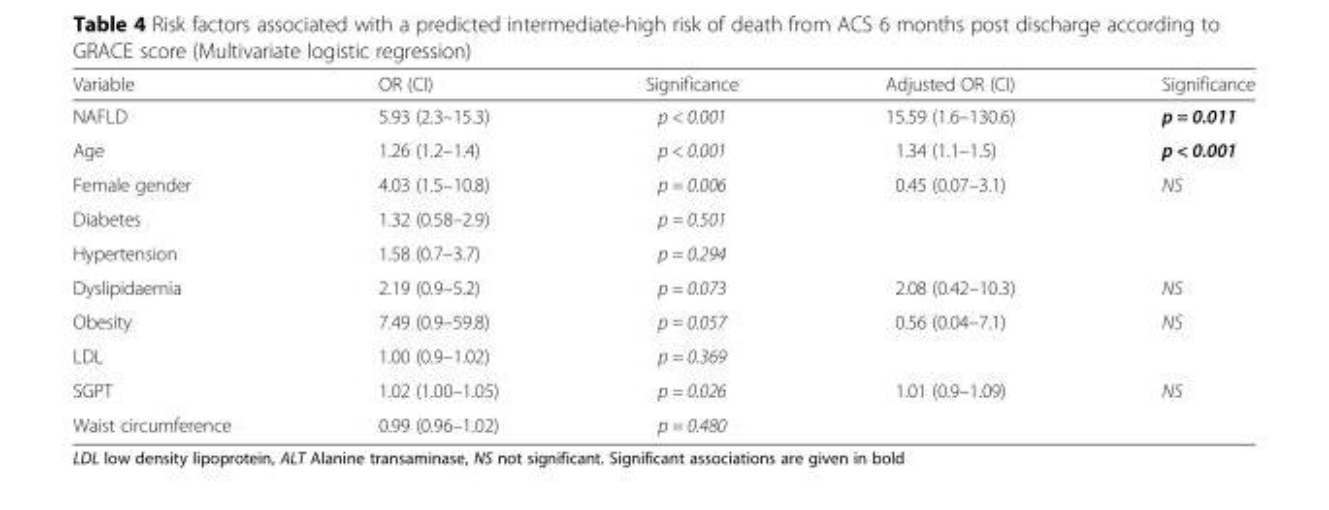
<table><thead><tr><td>Variable</td><td>OR (CI)</td><td>Significance</td><td>Adjusted OR (CI)</td><td>Significance</td></tr></thead><tbody><tr><td>NAFLD</td><td>5.93 (2.3–15.3)</td><td>p &lt; 0.001</td><td>15.59 (1.6–130.6)</td><td>p = 0.011</td></tr><tr><td>Age</td><td>1.26 (1.2–1.4)</td><td>p &lt; 0.001</td><td>1.34 (1.1–1.5)</td><td>p &lt; 0.001</td></tr><tr><td>Female gender</td><td>4.03 (1.5–10.8)</td><td>p = 0.006</td><td>0.45 (0.07–3.1)</td><td>NS</td></tr><tr><td>Diabetes</td><td>1.32 (0.58–2.9)</td><td>p = 0.501</td><td></td><td></td></tr><tr><td>Hypertension</td><td>1.58 (0.7–3.7)</td><td>p = 0.294</td><td></td><td></td></tr><tr><td>Dyslipidaemia</td><td>2.19 (0.9–5.2)</td><td>p = 0.073</td><td>2.08 (0.42–10.3)</td><td>NS</td></tr><tr><td>Obesity</td><td>7.49 (0.9–59.8)</td><td>p = 0.057</td><td>0.56 (0.04–7.1)</td><td>NS</td></tr><tr><td>LDL</td><td>1.00 (0.9–1.02)</td><td>p = 0.369</td><td></td><td></td></tr><tr><td>SGPT</td><td>1.02 (1.00–1.05)</td><td>p = 0.026</td><td>1.01 (0.9–1.09)</td><td>NS</td></tr><tr><td>Waist circumference</td><td>0.99 (0.96–1.02)</td><td>p = 0.480</td><td></td><td></td></tr></tbody></table>